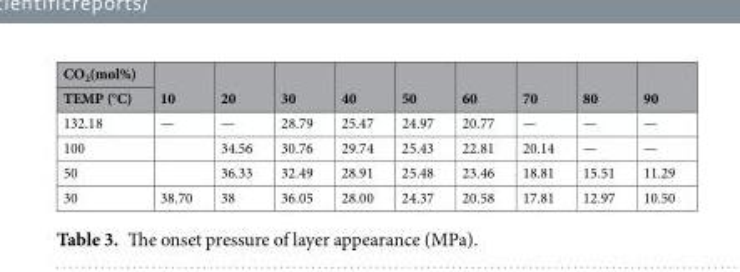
<table><thead><tr><td rowspan="2">CO<sub>2</sub>(mol%) TEMP (°C)</td><td rowspan="2">10</td><td rowspan="2">20</td><td rowspan="2">30</td><td rowspan="2">40</td><td rowspan="2">50</td><td rowspan="2">60</td><td rowspan="2">70</td><td rowspan="2">80</td><td rowspan="2">90</td></tr><tr></tr></thead><tbody><tr><td>132.18</td><td>—</td><td>—</td><td>28.79</td><td>25.47</td><td>24.97</td><td>20.77</td><td>—</td><td>—</td><td>—</td></tr><tr><td>100</td><td></td><td>34.56</td><td>30.76</td><td>29.74</td><td>25.43</td><td>22.81</td><td>20.14</td><td>—</td><td>—</td></tr><tr><td>50</td><td></td><td>36.33</td><td>32.49</td><td>28.91</td><td>25.48</td><td>23.46</td><td>18.81</td><td>15.51</td><td>11.29</td></tr><tr><td>30</td><td>38.70</td><td>38</td><td>36.05</td><td>28.00</td><td>24.37</td><td>20.58</td><td>17.81</td><td>12.97</td><td>10.50</td></tr></tbody></table>